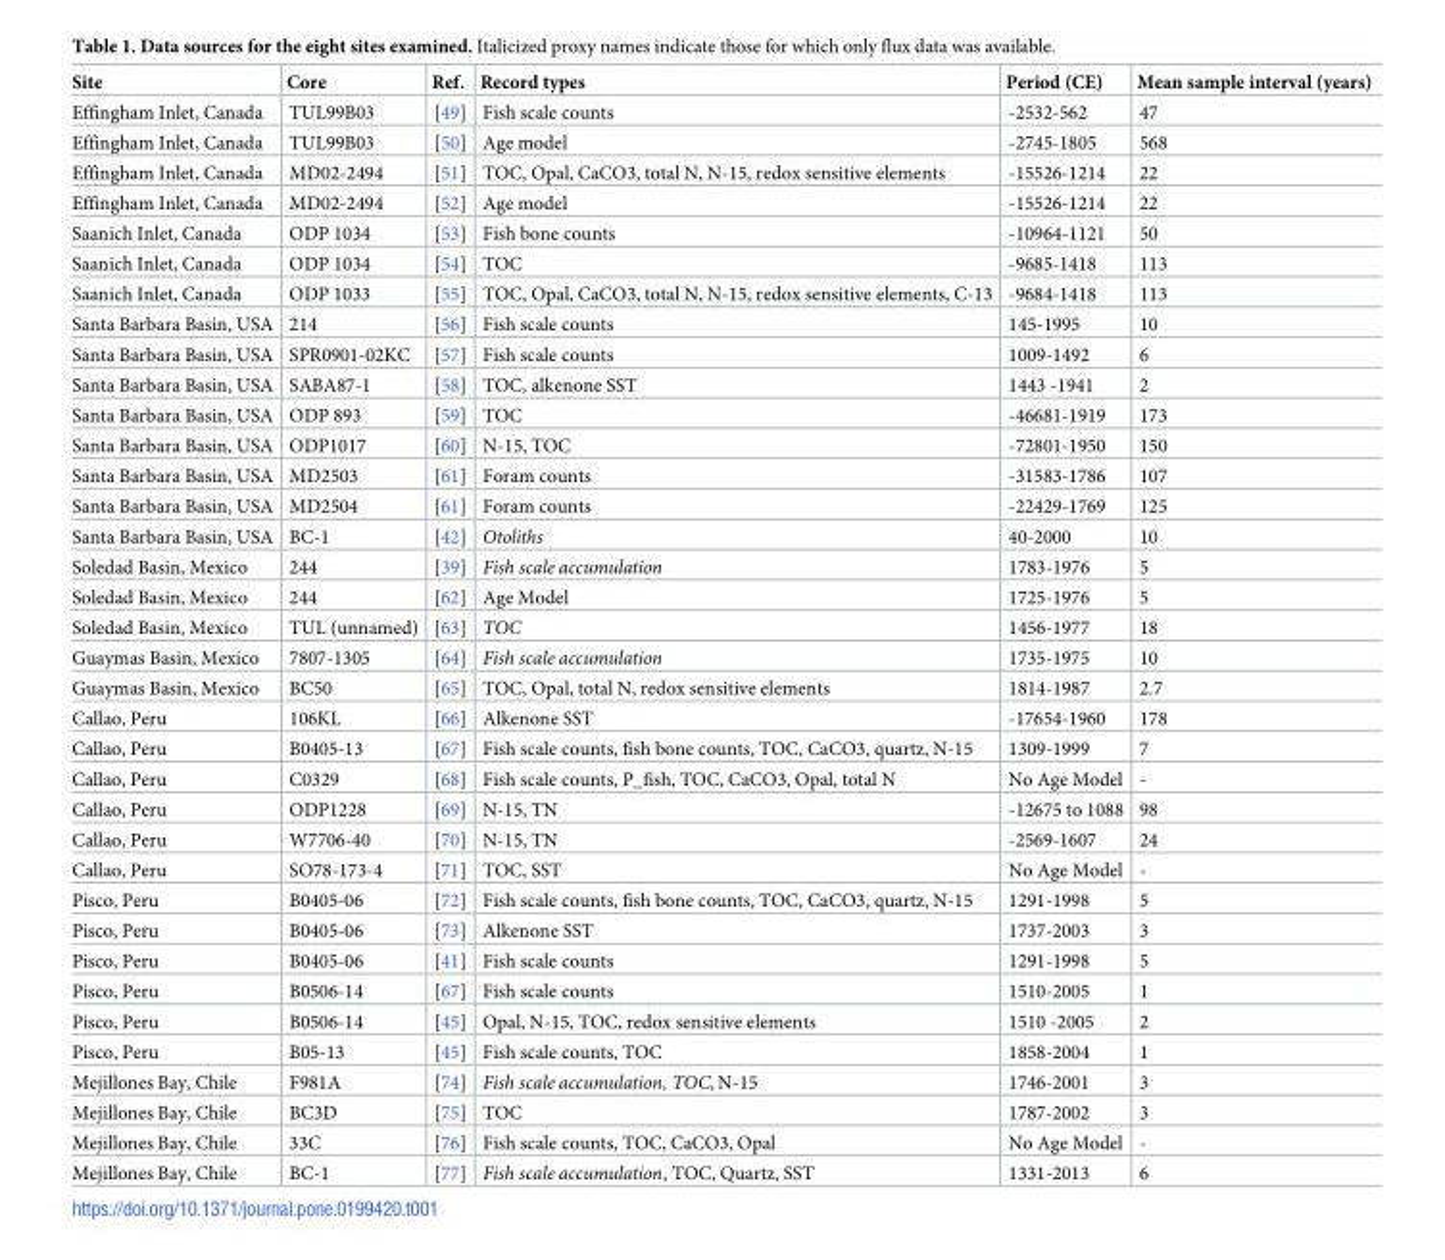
<table><thead><tr><td>Site</td><td>Core</td><td>Ref.</td><td>Record types</td><td>Period (CE)</td><td>Mean sample interval (years)</td></tr></thead><tbody><tr><td>Effingham Inlet, Canada</td><td>TUL99B03</td><td>[49]</td><td>Fish scale counts</td><td>-2532-562</td><td>47</td></tr><tr><td>Effingham Inlet, Canada</td><td>TUL99B03</td><td>[50]</td><td>Age model</td><td>-2745-1805</td><td>568</td></tr><tr><td>Effingham Inlet, Canada</td><td>MD02-2494</td><td>[51]</td><td>TOC, Opal, CaCO3, total N, N-15, redox sensitive elements</td><td>-15526-1214</td><td>22</td></tr><tr><td>Effingham Inlet, Canada</td><td>MD02-2494</td><td>[52]</td><td>Age model</td><td>-15526-1214</td><td>22</td></tr><tr><td>Saanich Inlet, Canada</td><td>ODP 1034</td><td>[53]</td><td>Fish bone counts</td><td>-10964-1121</td><td>50</td></tr><tr><td>Saanich Inlet, Canada</td><td>ODP 1034</td><td>[54]</td><td>TOC</td><td>-9685-1418</td><td>113</td></tr><tr><td>Saanich Inlet, Canada</td><td>ODP 1033</td><td>[55]</td><td>TOC, Opal, CaCO3, total N, N-15, redox sensitive elements, C-13</td><td>-9684-1418</td><td>113</td></tr><tr><td>Santa Barbara Basin, USA</td><td>214</td><td>[56]</td><td>Fish scale counts</td><td>145-1995</td><td>10</td></tr><tr><td>Santa Barbara Basin, USA</td><td>SPR0901-02KC</td><td>[57]</td><td>Fish scale counts</td><td>1009-1492</td><td>6</td></tr><tr><td>Santa Barbara Basin, USA</td><td>SABA87-1</td><td>[58]</td><td>TOC, alkenone SST</td><td>1443 -1941</td><td>2</td></tr><tr><td>Santa Barbara Basin, USA</td><td>ODP 893</td><td>[59]</td><td>TOC</td><td>-46681-1919</td><td>173</td></tr><tr><td>Santa Barbara Basin, USA</td><td>ODP1017</td><td>[60]</td><td>N-15, TOC</td><td>-72801-1950</td><td>150</td></tr><tr><td>Santa Barbara Basin, USA</td><td>MD2503</td><td>[61]</td><td>Foram counts</td><td>-31583-1786</td><td>107</td></tr><tr><td>Santa Barbara Basin, USA</td><td>MD2504</td><td>[61]</td><td>Foram counts</td><td>-22429-1769</td><td>125</td></tr><tr><td>Santa Barbara Basin, USA</td><td>BC-1</td><td>[42]</td><td>Otoliths</td><td>40-2000</td><td>10</td></tr><tr><td>Soledad Basin, Mexico</td><td>244</td><td>[39]</td><td>Fish scale accumulation</td><td>1783-1976</td><td>5</td></tr><tr><td>Soledad Basin, Mexico</td><td>244</td><td>[62]</td><td>Age Model</td><td>1725-1976</td><td>5</td></tr><tr><td>Soledad Basin, Mexico</td><td>TUL (unnamed)</td><td>[63]</td><td>TOC</td><td>1456-1977</td><td>18</td></tr><tr><td>Guaymas Basin, Mexico</td><td>7807-1305</td><td>[64]</td><td>Fish scale accumulation</td><td>1735-1975</td><td>10</td></tr><tr><td>Guaymas Basin, Mexico</td><td>BC50</td><td>[65]</td><td>TOC, Opal, total N, redox sensitive elements</td><td>1814-1987</td><td>2.7</td></tr><tr><td>Callao, Peru</td><td>106KL</td><td>[66]</td><td>Alkenone SST</td><td>-17654-1960</td><td>178</td></tr><tr><td>Callao, Peru</td><td>B0405-13</td><td>[67]</td><td>Fish scale counts, fish bone counts, TOC, CaCO3, quartz, N-15</td><td>1309-1999</td><td>7</td></tr><tr><td>Callao, Peru</td><td>C0329</td><td>[68]</td><td>Fish scale counts, P_fish, TOC, CaCO3, Opal, total N</td><td>No Age Model</td><td>-</td></tr><tr><td>Callao, Peru</td><td>ODP1228</td><td>[69]</td><td>N-15, TN</td><td>-12675 to 1088</td><td>98</td></tr><tr><td>Callao, Peru</td><td>W7706-40</td><td>[70]</td><td>N-15, TN</td><td>-2569-1607</td><td>24</td></tr><tr><td>Callao, Peru</td><td>SO78-173-4</td><td>[71]</td><td>TOC, SST</td><td>No Age Model</td><td>-</td></tr><tr><td>Pisco, Peru</td><td>B0405-06</td><td>[72]</td><td>Fish scale counts, fish bone counts, TOC, CaCO3, quartz, N-15</td><td>1291-1998</td><td>5</td></tr><tr><td>Pisco, Peru</td><td>B0405-06</td><td>[73]</td><td>Alkenone SST</td><td>1737-2003</td><td>3</td></tr><tr><td>Pisco, Peru</td><td>B0405-06</td><td>[41]</td><td>Fish scale counts</td><td>1291-1998</td><td>5</td></tr><tr><td>Pisco, Peru</td><td>B0506-14</td><td>[67]</td><td>Fish scale counts</td><td>1510-2005</td><td>1</td></tr><tr><td>Pisco, Peru</td><td>B0506-14</td><td>[45]</td><td>Opal, N-15, TOC, redox sensitive elements</td><td>1510 -2005</td><td>2</td></tr><tr><td>Pisco, Peru</td><td>B05-13</td><td>[45]</td><td>Fish scale counts, TOC</td><td>1858-2004</td><td>1</td></tr><tr><td>Mejillones Bay, Chile</td><td>F981A</td><td>[74]</td><td>Fish scale accumulation, TOC, N-15</td><td>1746-2001</td><td>3</td></tr><tr><td>Mejillones Bay, Chile</td><td>BC3D</td><td>[75]</td><td>TOC</td><td>1787-2002</td><td>3</td></tr><tr><td>Mejillones Bay, Chile</td><td>33C</td><td>[76]</td><td>Fish scale counts, TOC, CaCO3, Opal</td><td>No Age Model</td><td>-</td></tr><tr><td>Mejillones Bay, Chile</td><td>BC-1</td><td>[77]</td><td>Fish scale accumulation, TOC, Quartz, SST</td><td>1331-2013</td><td>6</td></tr></tbody></table>